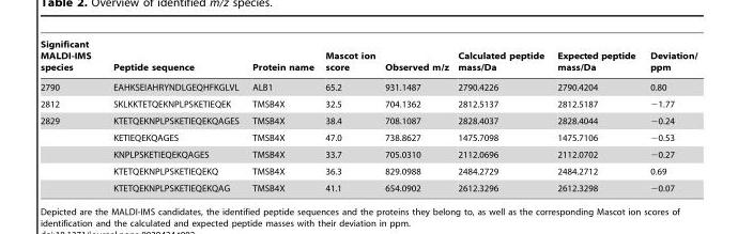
<table><thead><tr><td>Significant MALDI-IMS species</td><td>Peptide sequence</td><td>Protein name</td><td>Mascot ion score</td><td>Observed m/z</td><td>Calculated peptide mass/Da</td><td>Expected peptide mass/Da</td><td>Deviation/ ppm</td></tr></thead><tbody><tr><td>2790</td><td>EAHKSEIAHRYNDLGEQHFKGLVL</td><td>ALB1</td><td>65.2</td><td>931.1487</td><td>2790.4226</td><td>2790.4204</td><td>0.80</td></tr><tr><td>2812</td><td>SKLKKTETQEKNPLPSKETIEQEK</td><td>TMSB4X</td><td>32.5</td><td>704.1362</td><td>2812.5137</td><td>2812.5187</td><td>−1.77</td></tr><tr><td rowspan="5">2829</td><td>KTETQEKNPLPSKETIEQEKQAGES</td><td>TMSB4X</td><td>38.4</td><td>708.1087</td><td>2828.4037</td><td>2828.4044</td><td>−0.24</td></tr><tr><td>KETIEQEKQAGES</td><td>TMSB4X</td><td>47.0</td><td>738.8627</td><td>1475.7098</td><td>1475.7106</td><td>−0.53</td></tr><tr><td>KNPLPSKETIEQEKQAGES</td><td>TMSB4X</td><td>33.7</td><td>705.0310</td><td>2112.0696</td><td>2112.0702</td><td>−0.27</td></tr><tr><td>KTETQEKNPLPSKETIEQEKQ</td><td>TMSB4X</td><td>36.3</td><td>829.0988</td><td>2484.2729</td><td>2484.2712</td><td>0.69</td></tr><tr><td>KTETQEKNPLPSKETIEQEKQAG</td><td>TMSB4X</td><td>41.1</td><td>654.0902</td><td>2612.3296</td><td>2612.3298</td><td>−0.07</td></tr></tbody></table>